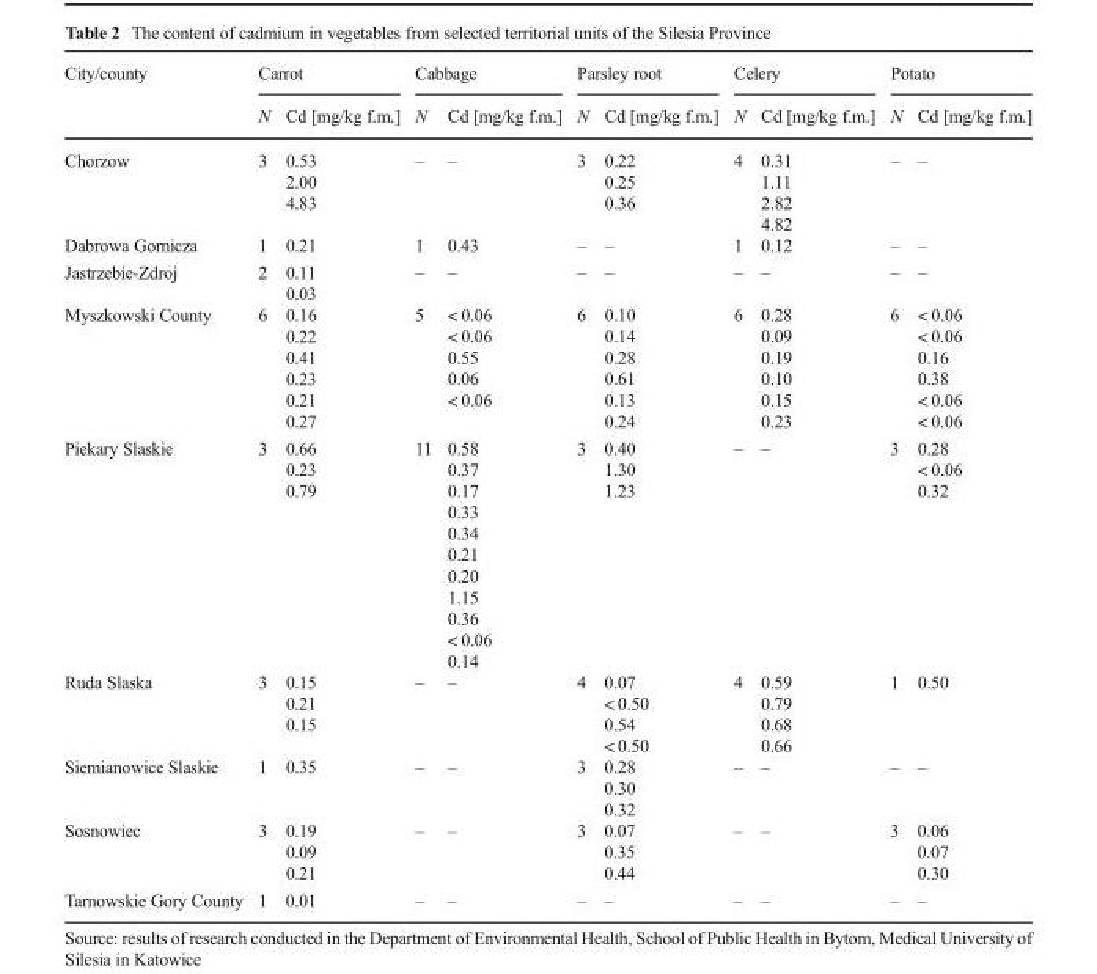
<table><thead><tr><td rowspan="2">City/county</td><td colspan="2">Carrot</td><td colspan="2">Cabbage</td><td colspan="2">Parsley root</td><td colspan="2">Celery</td><td colspan="2">Potato</td></tr><tr><td>N</td><td>Cd [mg/kg f.m.]</td><td>N</td><td>Cd [mg/kg f.m.]</td><td>N</td><td>Cd [mg/kg f.m.]</td><td>N</td><td>Cd [mg/kg f.m.]</td><td>N</td><td>Cd [mg/kg f.m.]</td></tr></thead><tbody><tr><td>Chorzow</td><td>3</td><td>0.53 2.00 4.83</td><td>–</td><td>–</td><td>3</td><td>0.22 0.25 0.36</td><td>4</td><td>0.31 1.11 2.82 4.82</td><td>–</td><td>–</td></tr><tr><td>Dabrowa Gornicza</td><td>1</td><td>0.21</td><td>1</td><td>0.43</td><td>–</td><td>–</td><td>1</td><td>0.12</td><td>–</td><td>–</td></tr><tr><td>Jastrzebie-Zdroj</td><td>2</td><td>0.11 0.03</td><td>–</td><td>–</td><td>–</td><td>–</td><td>–</td><td>–</td><td>–</td><td>–</td></tr><tr><td>Myszkowski County</td><td>6</td><td>0.16 0.22 0.41 0.23 0.21 0.27</td><td>5</td><td>&lt; 0.06 &lt; 0.06 0.55 0.06 &lt; 0.06</td><td>6</td><td>0.10 0.14 0.28 0.61 0.13 0.24</td><td>6</td><td>0.28 0.09 0.19 0.10 0.15 0.23</td><td>6</td><td>&lt; 0.06 &lt; 0.06 0.16 0.38 &lt; 0.06 &lt; 0.06</td></tr><tr><td>Piekary Slaskie</td><td>3</td><td>0.66 0.23 0.79</td><td>11</td><td>0.58 0.37 0.17 0.33 0.34 0.21 0.20 1.15 0.36 &lt; 0.06 0.14</td><td>3</td><td>0.40 1.30 1.23</td><td>–</td><td>–</td><td>3</td><td>0.28 &lt; 0.06 0.32</td></tr><tr><td>Ruda Slaska</td><td>3</td><td>0.15 0.21 0.15</td><td>–</td><td>–</td><td>4</td><td>0.07 &lt; 0.50 0.54 &lt; 0.50</td><td>4</td><td>0.59 0.79 0.68 0.66</td><td>1</td><td>0.50</td></tr><tr><td>Siemianowice Slaskie</td><td>1</td><td>0.35</td><td>–</td><td>–</td><td>3</td><td>0.28 0.30 0.32</td><td>–</td><td>–</td><td>–</td><td>–</td></tr><tr><td>Sosnowiec</td><td>3</td><td>0.19 0.09 0.21</td><td>–</td><td>–</td><td>3</td><td>0.07 0.35 0.44</td><td>–</td><td>–</td><td>3</td><td>0.06 0.07 0.30</td></tr><tr><td>Tarnowskie Gory County</td><td>1</td><td>0.01</td><td>–</td><td>–</td><td>–</td><td>–</td><td>–</td><td>–</td><td>–</td><td>–</td></tr></tbody></table>